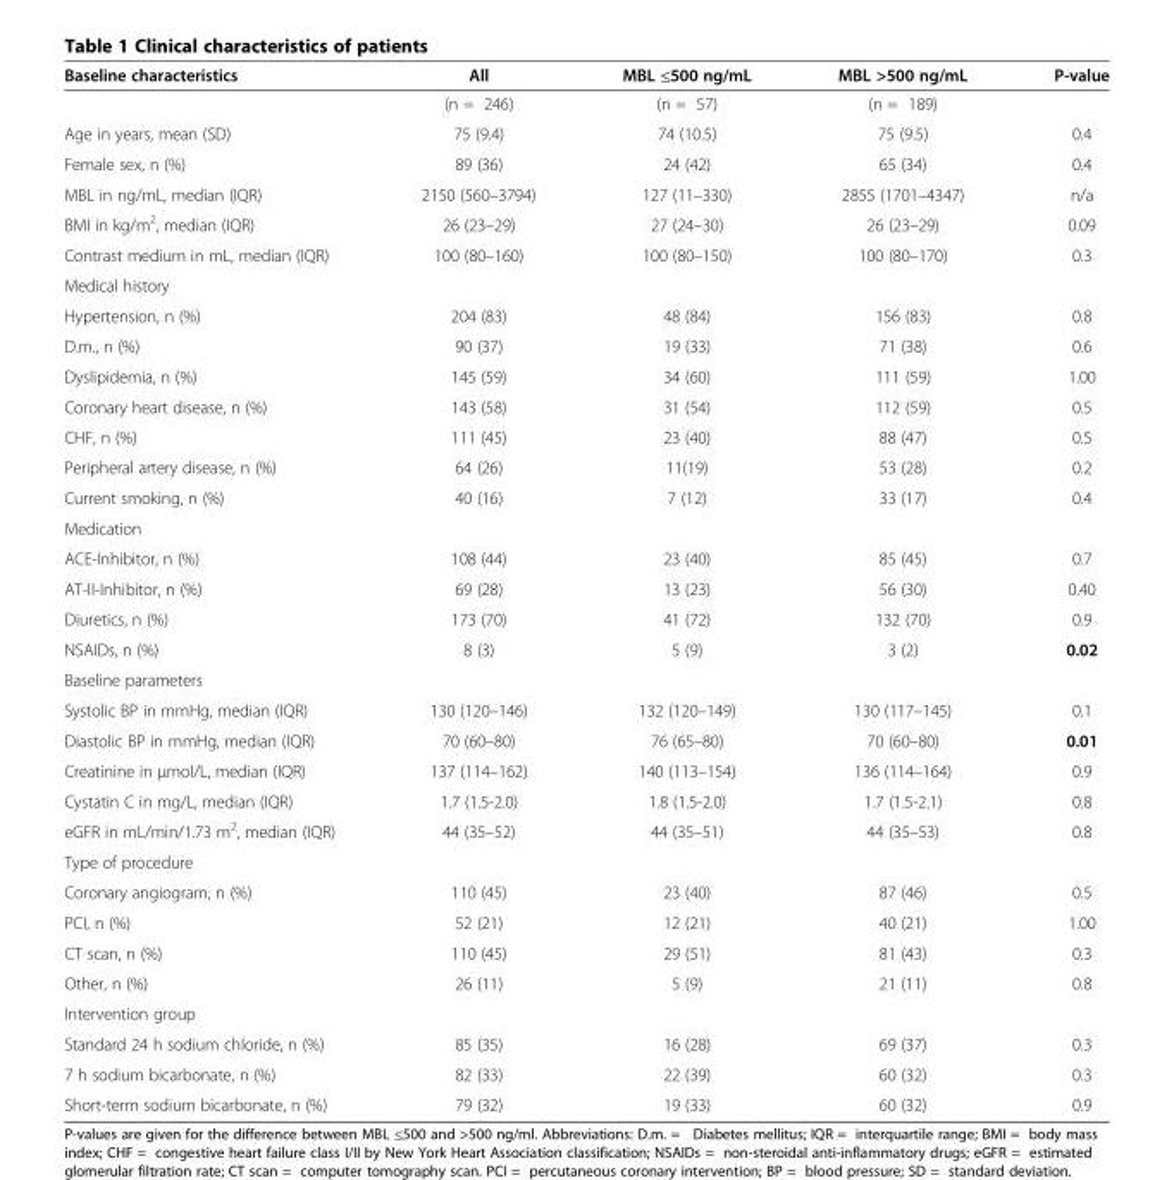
<table><thead><tr><td>Baseline characteristics</td><td>All</td><td>MBL ≤500 ng/mL</td><td>MBL &gt;500 ng/mL</td><td>P-value</td></tr></thead><tbody><tr><td></td><td>(n = 246)</td><td>(n = 57)</td><td>(n = 189)</td><td></td></tr><tr><td>Age in years, mean (SD)</td><td>75 (9.4)</td><td>74 (10.5)</td><td>75 (9.5)</td><td>0.4</td></tr><tr><td>Female sex, n (%)</td><td>89 (36)</td><td>24 (42)</td><td>65 (34)</td><td>0.4</td></tr><tr><td>MBL in ng/mL, median (IQR)</td><td>2150 (560–3794)</td><td>127 (11–330)</td><td>2855 (1701–4347)</td><td>n/a</td></tr><tr><td>BMI in kg/m<sup>2</sup>, median (IQR)</td><td>26 (23–29)</td><td>27 (24–30)</td><td>26 (23–29)</td><td>0.09</td></tr><tr><td>Contrast medium in mL, median (IQR)</td><td>100 (80–160)</td><td>100 (80–150)</td><td>100 (80–170)</td><td>0.3</td></tr><tr><td colspan="5">Medical history</td></tr><tr><td>Hypertension, n (%)</td><td>204 (83)</td><td>48 (84)</td><td>156 (83)</td><td>0.8</td></tr><tr><td>D.m., n (%)</td><td>90 (37)</td><td>19 (33)</td><td>71 (38)</td><td>0.6</td></tr><tr><td>Dyslipidemia, n (%)</td><td>145 (59)</td><td>34 (60)</td><td>111 (59)</td><td>1.00</td></tr><tr><td>Coronary heart disease, n (%)</td><td>143 (58)</td><td>31 (54)</td><td>112 (59)</td><td>0.5</td></tr><tr><td>CHF, n (%)</td><td>111 (45)</td><td>23 (40)</td><td>88 (47)</td><td>0.5</td></tr><tr><td>Peripheral artery disease, n (%)</td><td>64 (26)</td><td>11(19)</td><td>53 (28)</td><td>0.2</td></tr><tr><td>Current smoking, n (%)</td><td>40 (16)</td><td>7 (12)</td><td>33 (17)</td><td>0.4</td></tr><tr><td colspan="5">Medication</td></tr><tr><td>ACE-Inhibitor, n (%)</td><td>108 (44)</td><td>23 (40)</td><td>85 (45)</td><td>0.7</td></tr><tr><td>AT-II-Inhibitor, n (%)</td><td>69 (28)</td><td>13 (23)</td><td>56 (30)</td><td>0.40</td></tr><tr><td>Diuretics, n (%)</td><td>173 (70)</td><td>41 (72)</td><td>132 (70)</td><td>0.9</td></tr><tr><td>NSAIDs, n (%)</td><td>8 (3)</td><td>5 (9)</td><td>3 (2)</td><td>0.02</td></tr><tr><td colspan="5">Baseline parameters</td></tr><tr><td>Systolic BP in mmHg, median (IQR)</td><td>130 (120–146)</td><td>132 (120–149)</td><td>130 (117–145)</td><td>0.1</td></tr><tr><td>Diastolic BP in mmHg, median (IQR)</td><td>70 (60–80)</td><td>76 (65–80)</td><td>70 (60–80)</td><td>0.01</td></tr><tr><td>Creatinine in μmol/L, median (IQR)</td><td>137 (114–162)</td><td>140 (113–154)</td><td>136 (114–164)</td><td>0.9</td></tr><tr><td>Cystatin C in mg/L, median (IQR)</td><td>1.7 (1.5-2.0)</td><td>1.8 (1.5-2.0)</td><td>1.7 (1.5-2.1)</td><td>0.8</td></tr><tr><td>eGFR in mL/min/1.73 m<sup>2</sup>, median (IQR)</td><td>44 (35–52)</td><td>44 (35–51)</td><td>44 (35–53)</td><td>0.8</td></tr><tr><td colspan="5">Type of procedure</td></tr><tr><td>Coronary angiogram, n (%)</td><td>110 (45)</td><td>23 (40)</td><td>87 (46)</td><td>0.5</td></tr><tr><td>PCI, n (%)</td><td>52 (21)</td><td>12 (21)</td><td>40 (21)</td><td>1.00</td></tr><tr><td>CT scan, n (%)</td><td>110 (45)</td><td>29 (51)</td><td>81 (43)</td><td>0.3</td></tr><tr><td>Other, n (%)</td><td>26 (11)</td><td>5 (9)</td><td>21 (11)</td><td>0.8</td></tr><tr><td colspan="5">Intervention group</td></tr><tr><td>Standard 24 h sodium chloride, n (%)</td><td>85 (35)</td><td>16 (28)</td><td>69 (37)</td><td>0.3</td></tr><tr><td>7 h sodium bicarbonate, n (%)</td><td>82 (33)</td><td>22 (39)</td><td>60 (32)</td><td>0.3</td></tr><tr><td>Short-term sodium bicarbonate, n (%)</td><td>79 (32)</td><td>19 (33)</td><td>60 (32)</td><td>0.9</td></tr></tbody></table>